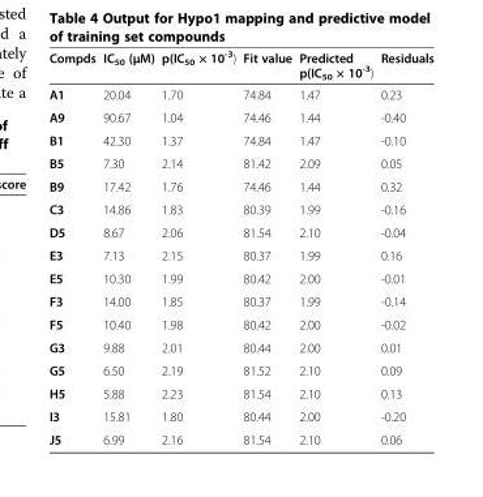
<table><thead><tr><td>Compds</td><td>IC<sub>50</sub> (μM)</td><td>p(IC<sub>50</sub> × 10<sup>-3</sup>)</td><td>Fit value</td><td>Predicted p(IC<sub>50</sub> × 10<sup>-3</sup>)</td><td>Residuals</td></tr></thead><tbody><tr><td>A1</td><td>20.04</td><td>1.70</td><td>74.84</td><td>1.47</td><td>0.23</td></tr><tr><td>A9</td><td>90.67</td><td>1.04</td><td>74.46</td><td>1.44</td><td>-0.40</td></tr><tr><td>B1</td><td>42.30</td><td>1.37</td><td>74.84</td><td>1.47</td><td>-0.10</td></tr><tr><td>B5</td><td>7.30</td><td>2.14</td><td>81.42</td><td>2.09</td><td>0.05</td></tr><tr><td>B9</td><td>17.42</td><td>1.76</td><td>74.46</td><td>1.44</td><td>0.32</td></tr><tr><td>C3</td><td>14.86</td><td>1.83</td><td>80.39</td><td>1.99</td><td>-0.16</td></tr><tr><td>D5</td><td>8.67</td><td>2.06</td><td>81.54</td><td>2.10</td><td>-0.04</td></tr><tr><td>E3</td><td>7.13</td><td>2.15</td><td>80.37</td><td>1.99</td><td>0.16</td></tr><tr><td>E5</td><td>10.30</td><td>1.99</td><td>80.42</td><td>2.00</td><td>-0.01</td></tr><tr><td>F3</td><td>14.00</td><td>1.85</td><td>80.37</td><td>1.99</td><td>-0.14</td></tr><tr><td>F5</td><td>10.40</td><td>1.98</td><td>80.42</td><td>2.00</td><td>-0.02</td></tr><tr><td>G3</td><td>9.88</td><td>2.01</td><td>80.44</td><td>2.00</td><td>0.01</td></tr><tr><td>G5</td><td>6.50</td><td>2.19</td><td>81.52</td><td>2.10</td><td>0.09</td></tr><tr><td>H5</td><td>5.88</td><td>2.23</td><td>81.54</td><td>2.10</td><td>0.13</td></tr><tr><td>I3</td><td>15.81</td><td>1.80</td><td>80.44</td><td>2.00</td><td>-0.20</td></tr><tr><td>J5</td><td>6.99</td><td>2.16</td><td>81.54</td><td>2.10</td><td>0.06</td></tr></tbody></table>